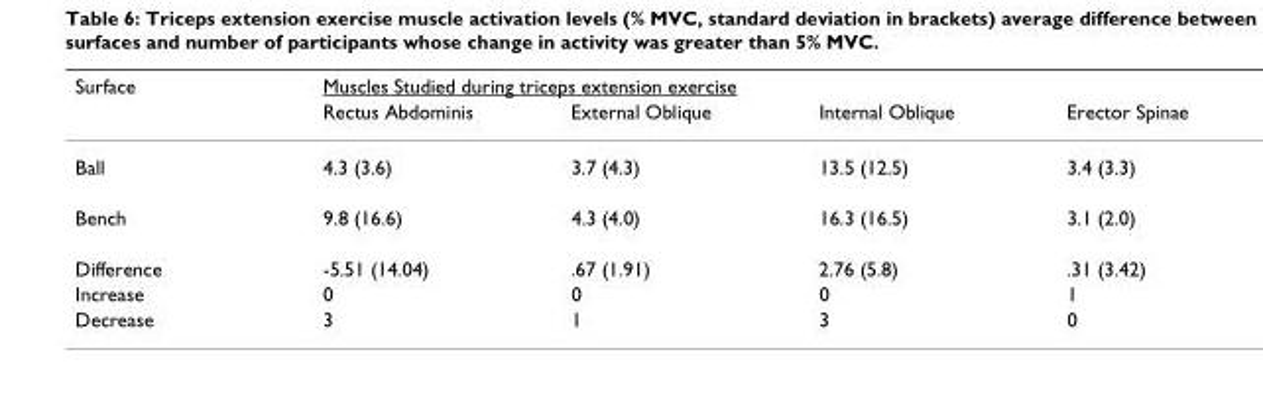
<table><thead><tr><td rowspan="2">Surface</td><td colspan="4">Muscles Studied during triceps extension exercise</td></tr><tr><td>Rectus Abdominis</td><td>External Oblique</td><td>Internal Oblique</td><td>Erector Spinae</td></tr></thead><tbody><tr><td>Ball</td><td>4.3 (3.6)</td><td>3.7 (4.3)</td><td>13.5 (12.5)</td><td>3.4 (3.3)</td></tr><tr><td>Bench</td><td>9.8 (16.6)</td><td>4.3 (4.0)</td><td>16.3 (16.5)</td><td>3.1 (2.0)</td></tr><tr><td>Difference</td><td>-5.51 (14.04)</td><td>.67 (1.91)</td><td>2.76 (5.8)</td><td>.31 (3.42)</td></tr><tr><td>Increase</td><td>0</td><td>0</td><td>0</td><td>1</td></tr><tr><td>Decrease</td><td>3</td><td>1</td><td>3</td><td>0</td></tr></tbody></table>